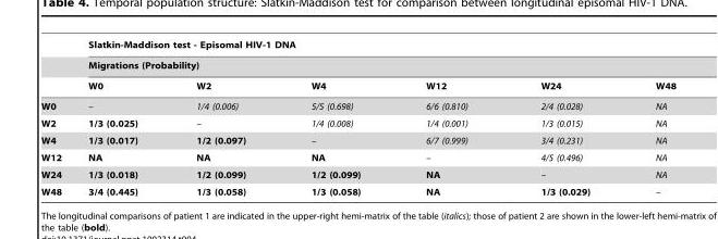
<table><thead><tr><td rowspan="3"></td><td rowspan="2" colspan="6">Slatkin-Maddison test - Episomal HIV-1 DNA Migrations (Probability)</td></tr><tr></tr><tr><td>W0</td><td>W2</td><td>W4</td><td>W12</td><td>W24</td><td>W48</td></tr></thead><tbody><tr><td>W0</td><td>–</td><td>1/4 (0.006)</td><td>5/5 (0.698)</td><td>6/6 (0.810)</td><td>2/4 (0.028)</td><td>NA</td></tr><tr><td>W2</td><td>1/3 (0.025)</td><td>–</td><td>1/4 (0.008)</td><td>1/4 (0.001)</td><td>1/3 (0.015)</td><td>NA</td></tr><tr><td>W4</td><td>1/3 (0.017)</td><td>1/2 (0.097)</td><td>–</td><td>6/7 (0.999)</td><td>3/4 (0.231)</td><td>NA</td></tr><tr><td>W12</td><td>NA</td><td>NA</td><td>NA</td><td>–</td><td>4/5 (0.496)</td><td>NA</td></tr><tr><td>W24</td><td>1/3 (0.018)</td><td>1/2 (0.099)</td><td>1/2 (0.099)</td><td>NA</td><td>–</td><td>NA</td></tr><tr><td>W48</td><td>3/4 (0.445)</td><td>1/3 (0.058)</td><td>1/3 (0.058)</td><td>NA</td><td>1/3 (0.029)</td><td>–</td></tr></tbody></table>